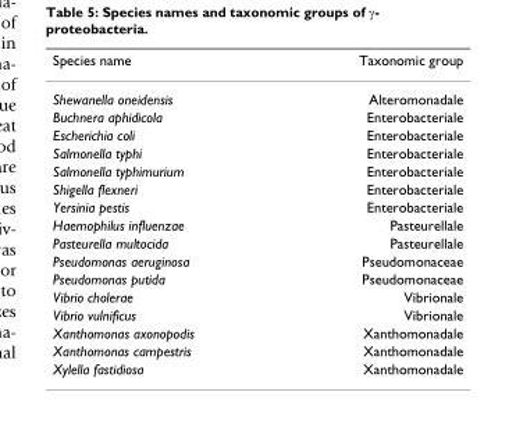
<table><thead><tr><td>Species name</td><td>Taxonomic group</td></tr></thead><tbody><tr><td>Shewanella oneidensis</td><td>Alteromonadale</td></tr><tr><td>Buchnera aphidicola</td><td>Enterobacteriale</td></tr><tr><td>Escherichia coli</td><td>Enterobacteriale</td></tr><tr><td>Salmonella typhi</td><td>Enterobacteriale</td></tr><tr><td>Salmonella typhimurium</td><td>Enterobacteriale</td></tr><tr><td>Shigella flexneri</td><td>Enterobacteriale</td></tr><tr><td>Yersinia pestis</td><td>Enterobacteriale</td></tr><tr><td>Haemophilus influenzae</td><td>Pasteurellale</td></tr><tr><td>Pasteurella multocida</td><td>Pasteurellale</td></tr><tr><td>Pseudomonas aeruginosa</td><td>Pseudomonaceae</td></tr><tr><td>Pseudomonas putida</td><td>Pseudomonaceae</td></tr><tr><td>Vibrio cholerae</td><td>Vibrionale</td></tr><tr><td>Vibrio vulnificus</td><td>Vibrionale</td></tr><tr><td>Xanthomonas axonopodis</td><td>Xanthomonadale</td></tr><tr><td>Xanthomonas campestris</td><td>Xanthomonadale</td></tr><tr><td>Xylella fastidiosa</td><td>Xanthomonadale</td></tr></tbody></table>